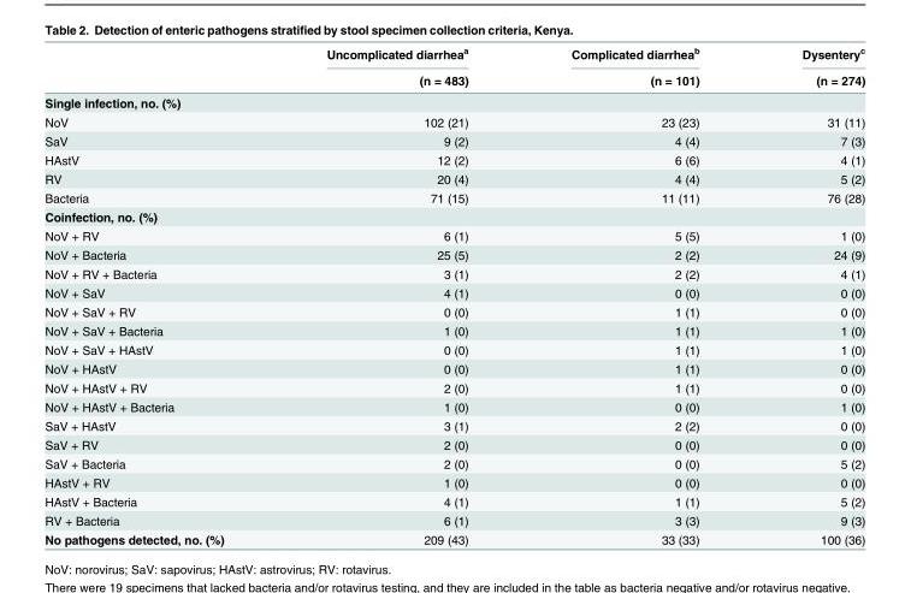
<table><thead><tr><td rowspan="2"></td><td rowspan="2">Uncomplicated diarrhea<sup>a</sup> (n = 483)</td><td rowspan="2">Complicated diarrhea<sup>b</sup> (n = 101)</td><td rowspan="2">Dysentery<sup>c</sup> (n = 274)</td></tr><tr></tr></thead><tbody><tr><td colspan="4">Single infection, no. (%)</td></tr><tr><td>NoV</td><td>102 (21)</td><td>23 (23)</td><td>31 (11)</td></tr><tr><td>SaV</td><td>9 (2)</td><td>4 (4)</td><td>7 (3)</td></tr><tr><td>HAstV</td><td>12 (2)</td><td>6 (6)</td><td>4 (1)</td></tr><tr><td>RV</td><td>20 (4)</td><td>4 (4)</td><td>5 (2)</td></tr><tr><td>Bacteria</td><td>71 (15)</td><td>11 (11)</td><td>76 (28)</td></tr><tr><td colspan="4">Coinfection, no. (%)</td></tr><tr><td>NoV + RV</td><td>6 (1)</td><td>5 (5)</td><td>1 (0)</td></tr><tr><td>NoV + Bacteria</td><td>25 (5)</td><td>2 (2)</td><td>24 (9)</td></tr><tr><td>NoV + RV + Bacteria</td><td>3 (1)</td><td>2 (2)</td><td>4 (1)</td></tr><tr><td>NoV + SaV</td><td>4 (1)</td><td>0 (0)</td><td>0 (0)</td></tr><tr><td>NoV + SaV + RV</td><td>0 (0)</td><td>1 (1)</td><td>0 (0)</td></tr><tr><td>NoV + SaV + Bacteria</td><td>1 (0)</td><td>1 (1)</td><td>1 (0)</td></tr><tr><td>NoV + SaV + HAstV</td><td>0 (0)</td><td>1 (1)</td><td>1 (0)</td></tr><tr><td>NoV + HAstV</td><td>0 (0)</td><td>1 (1)</td><td>0 (0)</td></tr><tr><td>NoV + HAstV + RV</td><td>2 (0)</td><td>1 (1)</td><td>0 (0)</td></tr><tr><td>NoV + HAstV + Bacteria</td><td>1 (0)</td><td>0 (0)</td><td>1 (0)</td></tr><tr><td>SaV + HAstV</td><td>3 (1)</td><td>2 (2)</td><td>0 (0)</td></tr><tr><td>SaV + RV</td><td>2 (0)</td><td>0 (0)</td><td>0 (0)</td></tr><tr><td>SaV + Bacteria</td><td>2 (0)</td><td>0 (0)</td><td>5 (2)</td></tr><tr><td>HAstV + RV</td><td>1 (0)</td><td>0 (0)</td><td>0 (0)</td></tr><tr><td>HAstV + Bacteria</td><td>4 (1)</td><td>1 (1)</td><td>5 (2)</td></tr><tr><td>RV + Bacteria</td><td>6 (1)</td><td>3 (3)</td><td>9 (3)</td></tr><tr><td>No pathogens detected, no. (%)</td><td>209 (43)</td><td>33 (33)</td><td>100 (36)</td></tr></tbody></table>